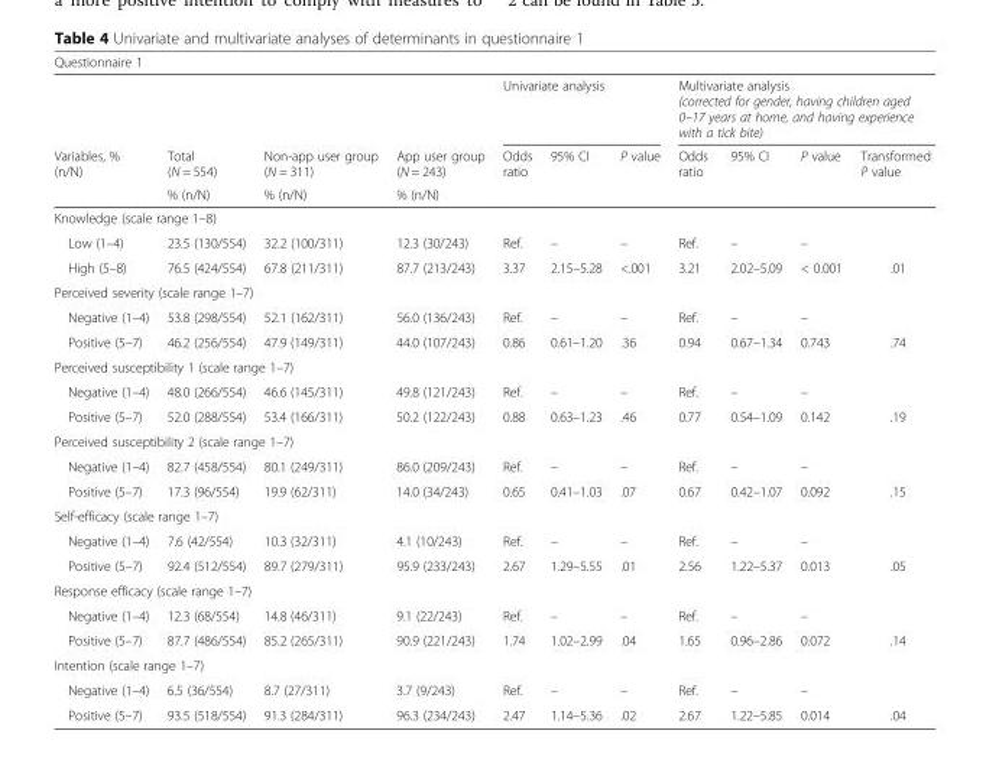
<table><thead><tr><td colspan="11">Questionnaire 1</td></tr><tr><td rowspan="3">Variables, % (n/N)</td><td rowspan="3">Total (N = 554) % (n/N)</td><td rowspan="3">Non-app user group (N = 311) % (n/N)</td><td rowspan="3">App user group (N = 243) % (n/N)</td><td colspan="3">Univariate analysis</td><td colspan="4">Multivariate analysis (corrected for gender, having children aged 0–17 years at home, and having experience with a tick bite)</td></tr><tr><td rowspan="2">Odds ratio</td><td rowspan="2">95% CI</td><td rowspan="2">P value</td><td rowspan="2">Odds ratio</td><td rowspan="2">95% CI</td><td rowspan="2">P value</td><td rowspan="2">Transformed P value</td></tr><tr></tr></thead><tbody><tr><td colspan="11">Knowledge (scale range 1–8)</td></tr><tr><td>Low (1–4)</td><td>23.5 (130/554)</td><td>32.2 (100/311)</td><td>12.3 (30/243)</td><td>Ref.</td><td>–</td><td>–</td><td>Ref.</td><td>–</td><td>–</td><td></td></tr><tr><td>High (5–8)</td><td>76.5 (424/554)</td><td>67.8 (211/311)</td><td>87.7 (213/243)</td><td>3.37</td><td>2.15–5.28</td><td>&lt;.001</td><td>3.21</td><td>2.02–5.09</td><td>&lt; 0.001</td><td>.01</td></tr><tr><td colspan="11">Perceived severity (scale range 1–7)</td></tr><tr><td>Negative (1–4)</td><td>53.8 (298/554)</td><td>52.1 (162/311)</td><td>56.0 (136/243)</td><td>Ref.</td><td>–</td><td>–</td><td>Ref.</td><td>–</td><td>–</td><td></td></tr><tr><td>Positive (5–7)</td><td>46.2 (256/554)</td><td>47.9 (149/311)</td><td>44.0 (107/243)</td><td>0.86</td><td>0.61–1.20</td><td>.36</td><td>0.94</td><td>0.67–1.34</td><td>0.743</td><td>.74</td></tr><tr><td colspan="11">Perceived susceptibility 1 (scale range 1–7)</td></tr><tr><td>Negative (1–4)</td><td>48.0 (266/554)</td><td>46.6 (145/311)</td><td>49.8 (121/243)</td><td>Ref.</td><td>–</td><td>–</td><td>Ref.</td><td>–</td><td>–</td><td></td></tr><tr><td>Positive (5–7)</td><td>52.0 (288/554)</td><td>53.4 (166/311)</td><td>50.2 (122/243)</td><td>0.88</td><td>0.63–1.23</td><td>.46</td><td>0.77</td><td>0.54–1.09</td><td>0.142</td><td>.19</td></tr><tr><td colspan="11">Perceived susceptibility 2 (scale range 1–7)</td></tr><tr><td>Negative (1–4)</td><td>82.7 (458/554)</td><td>80.1 (249/311)</td><td>86.0 (209/243)</td><td>Ref.</td><td>–</td><td>–</td><td>Ref.</td><td>–</td><td>–</td><td></td></tr><tr><td>Positive (5–7)</td><td>17.3 (96/554)</td><td>19.9 (62/311)</td><td>14.0 (34/243)</td><td>0.65</td><td>0.41–1.03</td><td>.07</td><td>0.67</td><td>0.42–1.07</td><td>0.092</td><td>.15</td></tr><tr><td colspan="11">Self-efficacy (scale range 1–7)</td></tr><tr><td>Negative (1–4)</td><td>7.6 (42/554)</td><td>10.3 (32/311)</td><td>4.1 (10/243)</td><td>Ref.</td><td>–</td><td>–</td><td>Ref.</td><td>–</td><td>–</td><td></td></tr><tr><td>Positive (5–7)</td><td>92.4 (512/554)</td><td>89.7 (279/311)</td><td>95.9 (233/243)</td><td>2.67</td><td>1.29–5.55</td><td>.01</td><td>2.56</td><td>1.22–5.37</td><td>0.013</td><td>.05</td></tr><tr><td colspan="11">Response efficacy (scale range 1–7)</td></tr><tr><td>Negative (1–4)</td><td>12.3 (68/554)</td><td>14.8 (46/311)</td><td>9.1 (22/243)</td><td>Ref.</td><td>–</td><td>–</td><td>Ref.</td><td>–</td><td>–</td><td></td></tr><tr><td>Positive (5–7)</td><td>87.7 (486/554)</td><td>85.2 (265/311)</td><td>90.9 (221/243)</td><td>1.74</td><td>1.02–2.99</td><td>.04</td><td>1.65</td><td>0.96–2.86</td><td>0.072</td><td>.14</td></tr><tr><td colspan="11">Intention (scale range 1–7)</td></tr><tr><td>Negative (1–4)</td><td>6.5 (36/554)</td><td>8.7 (27/311)</td><td>3.7 (9/243)</td><td>Ref.</td><td>–</td><td>–</td><td>Ref.</td><td>–</td><td>–</td><td></td></tr><tr><td>Positive (5–7)</td><td>93.5 (518/554)</td><td>91.3 (284/311)</td><td>96.3 (234/243)</td><td>2.47</td><td>1.14–5.36</td><td>.02</td><td>2.67</td><td>1.22–5.85</td><td>0.014</td><td>.04</td></tr></tbody></table>